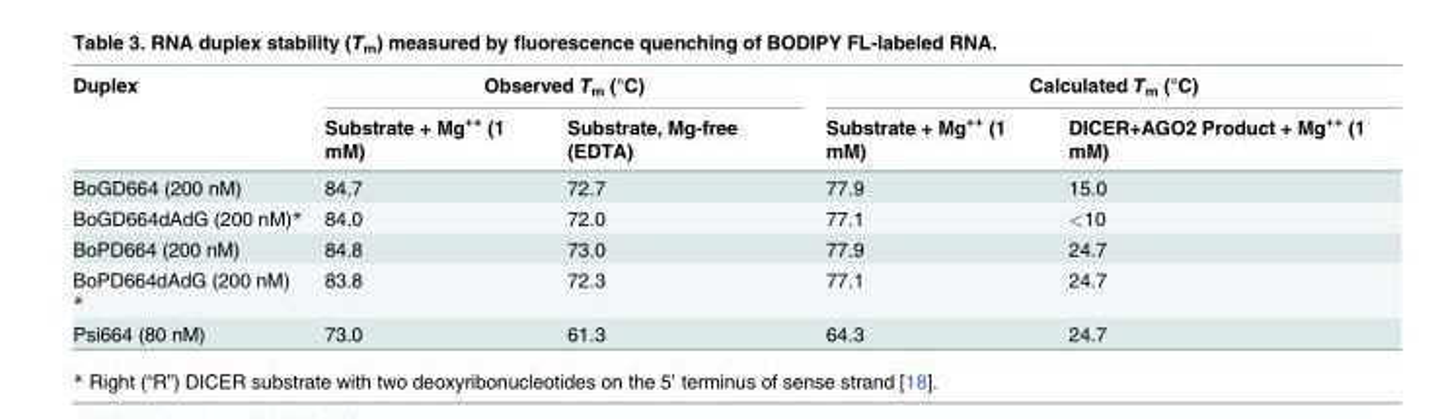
<table><thead><tr><td rowspan="2">Duplex</td><td colspan="2">Observed T<sub>m</sub> (°C)</td><td colspan="2">Calculated T<sub>m</sub> (°C)</td></tr><tr><td>Substrate + Mg<sup>++</sup> (1 mM)</td><td>Substrate, Mg-free (EDTA)</td><td>Substrate + Mg<sup>++</sup> (1 mM)</td><td>DICER+AGO2 Product + Mg<sup>++</sup> (1 mM)</td></tr></thead><tbody><tr><td>BoGD664 (200 nM)</td><td>84.7</td><td>72.7</td><td>77.9</td><td>15.0</td></tr><tr><td>BoGD664dAdG (200 nM)*</td><td>84.0</td><td>72.0</td><td>77.1</td><td>&lt;10</td></tr><tr><td>BoPD664 (200 nM)</td><td>84.8</td><td>73.0</td><td>77.9</td><td>24.7</td></tr><tr><td>BoPD664dAdG (200 nM) *</td><td>83.8</td><td>72.3</td><td>77.1</td><td>24.7</td></tr><tr><td>Psi664 (80 nM)</td><td>73.0</td><td>61.3</td><td>64.3</td><td>24.7</td></tr></tbody></table>